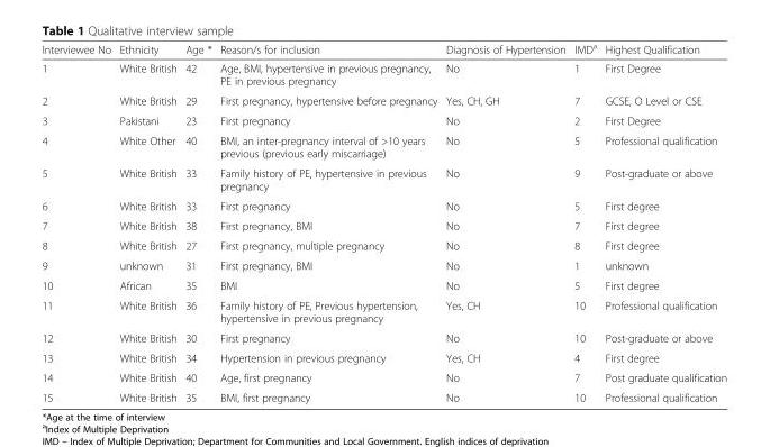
<table><thead><tr><td>Interviewee No</td><td>Ethnicity</td><td>Age *</td><td>Reason/s for inclusion</td><td>Diagnosis of Hypertension</td><td>IMD<sup>a</sup></td><td>Highest Qualification</td></tr></thead><tbody><tr><td>1</td><td>White British</td><td>42</td><td>Age, BMI, hypertensive in previous pregnancy, PE in previous pregnancy</td><td>No</td><td>1</td><td>First Degree</td></tr><tr><td>2</td><td>White British</td><td>29</td><td>First pregnancy, hypertensive before pregnancy</td><td>Yes, CH, GH</td><td>7</td><td>GCSE, O Level or CSE</td></tr><tr><td>3</td><td>Pakistani</td><td>23</td><td>First pregnancy</td><td>No</td><td>2</td><td>First Degree</td></tr><tr><td>4</td><td>White Other</td><td>40</td><td>BMI, an inter-pregnancy interval of &gt;10 years previous (previous early miscarriage)</td><td>No</td><td>5</td><td>Professional qualification</td></tr><tr><td>5</td><td>White British</td><td>33</td><td>Family history of PE, hypertensive in previous pregnancy</td><td>No</td><td>9</td><td>Post-graduate or above</td></tr><tr><td>6</td><td>White British</td><td>33</td><td>First pregnancy</td><td>No</td><td>5</td><td>First degree</td></tr><tr><td>7</td><td>White British</td><td>38</td><td>First pregnancy, BMI</td><td>No</td><td>7</td><td>First degree</td></tr><tr><td>8</td><td>White British</td><td>27</td><td>First pregnancy, multiple pregnancy</td><td>No</td><td>8</td><td>First degree</td></tr><tr><td>9</td><td>unknown</td><td>31</td><td>First pregnancy, BMI</td><td>No</td><td>1</td><td>unknown</td></tr><tr><td>10</td><td>African</td><td>35</td><td>BMI</td><td>No</td><td>5</td><td>First degree</td></tr><tr><td>11</td><td>White British</td><td>36</td><td>Family history of PE, Previous hypertension, hypertensive in previous pregnancy</td><td>Yes, CH</td><td>10</td><td>Professional qualification</td></tr><tr><td>12</td><td>White British</td><td>30</td><td>First pregnancy</td><td>No</td><td>10</td><td>Post-graduate or above</td></tr><tr><td>13</td><td>White British</td><td>34</td><td>Hypertension in previous pregnancy</td><td>Yes, CH</td><td>4</td><td>First degree</td></tr><tr><td>14</td><td>White British</td><td>40</td><td>Age, first pregnancy</td><td>No</td><td>7</td><td>Post graduate qualification</td></tr><tr><td>15</td><td>White British</td><td>35</td><td>BMI, first pregnancy</td><td>No</td><td>10</td><td>Professional qualification</td></tr></tbody></table>